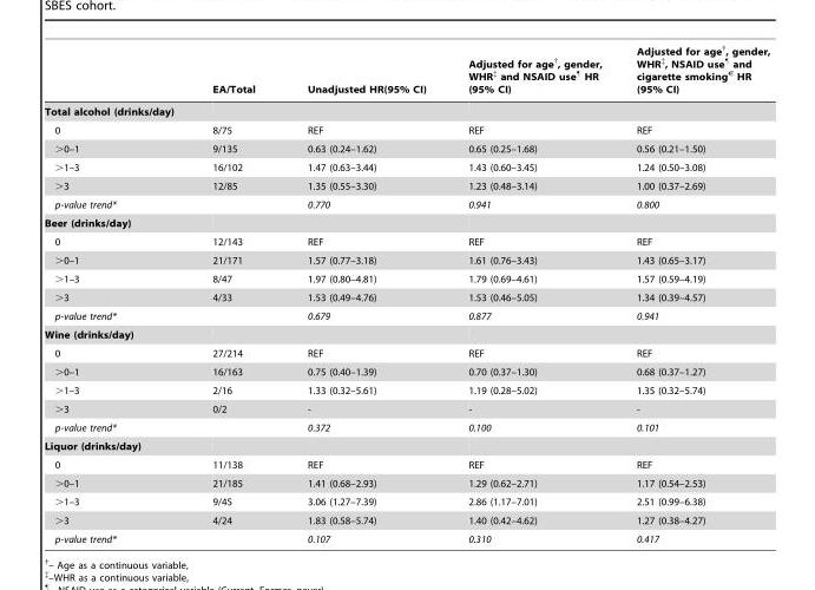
<table><thead><tr><td></td><td>EA/Total</td><td>Unadjusted HR(95% CI)</td><td>Adjusted for age†, gender, WHR‡ and NSAID use¶ HR (95% CI)</td><td>Adjusted for age†, gender, WHR‡, NSAID use¶ and cigarette smoking€ HR (95% CI)</td></tr></thead><tbody><tr><td colspan="5">Total alcohol (drinks/day)</td></tr><tr><td>0</td><td>8/75</td><td>REF</td><td>REF</td><td>REF</td></tr><tr><td>&gt;0–1</td><td>9/135</td><td>0.63 (0.24–1.62)</td><td>0.65 (0.25–1.68)</td><td>0.56 (0.21–1.50)</td></tr><tr><td>&gt;1–3</td><td>16/102</td><td>1.47 (0.63–3.44)</td><td>1.43 (0.60–3.45)</td><td>1.24 (0.50–3.08)</td></tr><tr><td>&gt;3</td><td>12/85</td><td>1.35 (0.55–3.30)</td><td>1.23 (0.48–3.14)</td><td>1.00 (0.37–2.69)</td></tr><tr><td>p-value trend*</td><td></td><td>0.770</td><td>0.941</td><td>0.800</td></tr><tr><td colspan="5">Beer (drinks/day)</td></tr><tr><td>0</td><td>12/143</td><td>REF</td><td>REF</td><td>REF</td></tr><tr><td>&gt;0–1</td><td>21/171</td><td>1.57 (0.77–3.18)</td><td>1.61 (0.76–3.43)</td><td>1.43 (0.65–3.17)</td></tr><tr><td>&gt;1–3</td><td>8/47</td><td>1.97 (0.80–4.81)</td><td>1.79 (0.69–4.61)</td><td>1.57 (0.59–4.19)</td></tr><tr><td>&gt;3</td><td>4/33</td><td>1.53 (0.49–4.76)</td><td>1.53 (0.46–5.05)</td><td>1.34 (0.39–4.57)</td></tr><tr><td>p-value trend*</td><td></td><td>0.679</td><td>0.877</td><td>0.941</td></tr><tr><td colspan="5">Wine (drinks/day)</td></tr><tr><td>0</td><td>27/214</td><td>REF</td><td>REF</td><td>REF</td></tr><tr><td>&gt;0–1</td><td>16/163</td><td>0.75 (0.40–1.39)</td><td>0.70 (0.37–1.30)</td><td>0.68 (0.37–1.27)</td></tr><tr><td>&gt;1–3</td><td>2/16</td><td>1.33 (0.32–5.61)</td><td>1.19 (0.28–5.02)</td><td>1.35 (0.32–5.74)</td></tr><tr><td>&gt;3</td><td>0/2</td><td>-</td><td>-</td><td>-</td></tr><tr><td>p-value trend*</td><td></td><td>0.372</td><td>0.100</td><td>0.101</td></tr><tr><td colspan="5">Liquor (drinks/day)</td></tr><tr><td>0</td><td>11/138</td><td>REF</td><td>REF</td><td>REF</td></tr><tr><td>&gt;0–1</td><td>21/185</td><td>1.41 (0.68–2.93)</td><td>1.29 (0.62–2.71)</td><td>1.17 (0.54–2.53)</td></tr><tr><td>&gt;1–3</td><td>9/45</td><td>3.06 (1.27–7.39)</td><td>2.86 (1.17–7.01)</td><td>2.51 (0.99–6.38)</td></tr><tr><td>&gt;3</td><td>4/24</td><td>1.83 (0.58–5.74)</td><td>1.40 (0.42–4.62)</td><td>1.27 (0.38–4.27)</td></tr><tr><td>p-value trend*</td><td></td><td>0.107</td><td>0.310</td><td>0.417</td></tr></tbody></table>